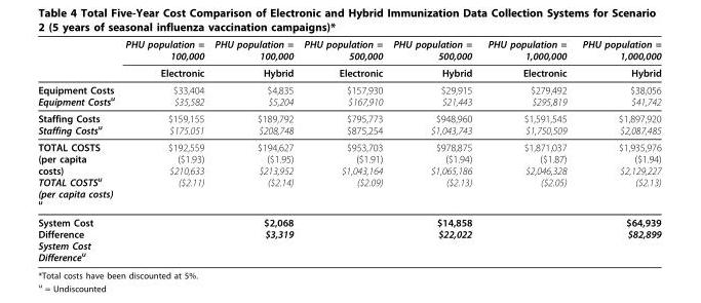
<table><thead><tr><td rowspan="2"></td><td rowspan="2">PHU population = 100,000 Electronic</td><td rowspan="2">PHU population = 100,000 Hybrid</td><td rowspan="2">PHU population = 500,000 Electronic</td><td rowspan="2">PHU population = 500,000 Hybrid</td><td rowspan="2">PHU population = 1,000,000 Electronic</td><td rowspan="2">PHU population = 1,000,000 Hybrid</td></tr><tr></tr></thead><tbody><tr><td>Equipment Costs Equipment Costs<sup>u</sup></td><td>$33,404 $35,582</td><td>$4,835 $5,204</td><td>$157,930 $167,910</td><td>$29,915 $21,443</td><td>$279,492 $295,819</td><td>$38,056 $41,742</td></tr><tr><td>Staffing Costs Staffing Costs<sup>u</sup></td><td>$159,155 $175.051</td><td>$189,792 $208,748</td><td>$795,773 $875,254</td><td>$948,960 $1,043,743</td><td>$1,591,545 $1,750,509</td><td>$1,897,920 $2,087,485</td></tr><tr><td>TOTAL COSTS (per capita costs) TOTAL COSTS<sup>u</sup> (per capita costs) <sup>u</sup></td><td>$192,559 ($1.93) $210,633 ($2.11)</td><td>$194,627 ($1.95) $213,952 ($2.14)</td><td>$953,703 ($1.91) $1,043,164 ($2.09)</td><td>$978,875 ($1.94) $1,065,186 ($2.13)</td><td>$1,871,037 ($1.87) $2,046,328 ($2.05)</td><td>$1,935,976 ($1.94) $2,129,227 ($2.13)</td></tr><tr><td>System Cost Difference System Cost Difference<sup>u</sup></td><td></td><td>$2,068 $3,319</td><td></td><td>$14,858 $22,022</td><td></td><td>$64,939 $82,899</td></tr></tbody></table>